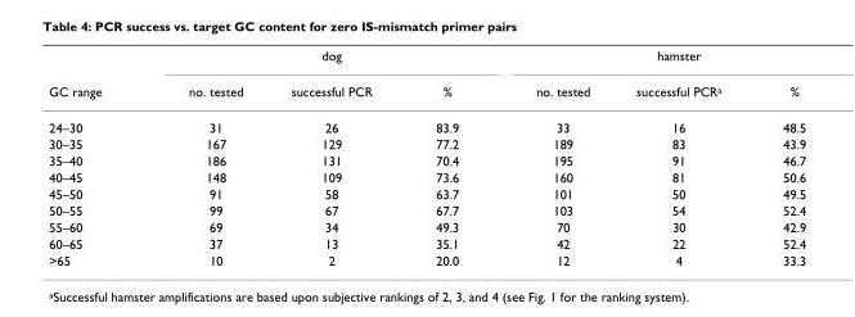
<table><thead><tr><td rowspan="2">GC range</td><td colspan="3">dog</td><td colspan="3">hamster</td></tr><tr><td>no. tested</td><td>successful PCR</td><td>%</td><td>no. tested</td><td>successful PCRa</td><td>%</td></tr></thead><tbody><tr><td>24–30</td><td>31</td><td>26</td><td>83.9</td><td>33</td><td>16</td><td>48.5</td></tr><tr><td>30–35</td><td>167</td><td>129</td><td>77.2</td><td>189</td><td>83</td><td>43.9</td></tr><tr><td>35–40</td><td>186</td><td>131</td><td>70.4</td><td>195</td><td>91</td><td>46.7</td></tr><tr><td>40–45</td><td>148</td><td>109</td><td>73.6</td><td>160</td><td>81</td><td>50.6</td></tr><tr><td>45–50</td><td>91</td><td>58</td><td>63.7</td><td>101</td><td>50</td><td>49.5</td></tr><tr><td>50–55</td><td>99</td><td>67</td><td>67.7</td><td>103</td><td>54</td><td>52.4</td></tr><tr><td>55–60</td><td>69</td><td>34</td><td>49.3</td><td>70</td><td>30</td><td>42.9</td></tr><tr><td>60–65</td><td>37</td><td>13</td><td>35.1</td><td>42</td><td>22</td><td>52.4</td></tr><tr><td>&gt;65</td><td>10</td><td>2</td><td>20.0</td><td>12</td><td>4</td><td>33.3</td></tr></tbody></table>